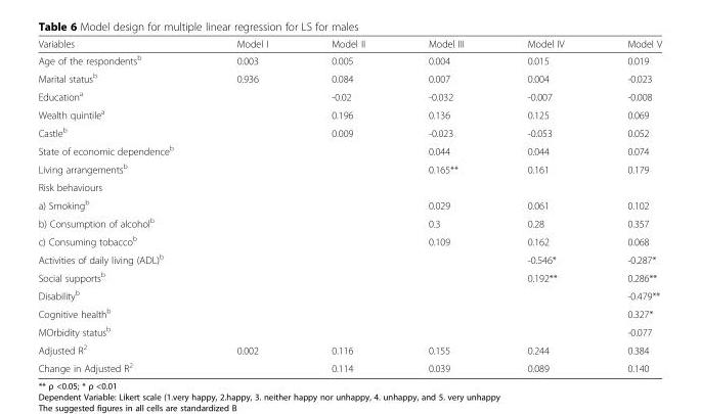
<table><thead><tr><td>Variables</td><td>Model I</td><td>Model II</td><td>Model III</td><td>Model IV</td><td>Model V</td></tr></thead><tbody><tr><td>Age of the respondents<sup>b</sup></td><td>0.003</td><td>0.005</td><td>0.004</td><td>0.015</td><td>0.019</td></tr><tr><td>Marital status<sup>b</sup></td><td>0.936</td><td>0.084</td><td>0.007</td><td>0.004</td><td>-0.023</td></tr><tr><td>Education<sup>a</sup></td><td></td><td>-0.02</td><td>-0.032</td><td>-0.007</td><td>-0.008</td></tr><tr><td>Wealth quintile<sup>a</sup></td><td></td><td>0.196</td><td>0.136</td><td>0.125</td><td>0.069</td></tr><tr><td>Castle<sup>b</sup></td><td></td><td>0.009</td><td>-0.023</td><td>-0.053</td><td>0.052</td></tr><tr><td>State of economic dependence<sup>b</sup></td><td></td><td></td><td>0.044</td><td>0.044</td><td>0.074</td></tr><tr><td>Living arrangements<sup>b</sup></td><td></td><td></td><td>0.165**</td><td>0.161</td><td>0.179</td></tr><tr><td colspan="6">Risk behaviours</td></tr><tr><td>a) Smoking<sup>b</sup></td><td></td><td></td><td>0.029</td><td>0.061</td><td>0.102</td></tr><tr><td>b) Consumption of alcohol<sup>b</sup></td><td></td><td></td><td>0.3</td><td>0.28</td><td>0.357</td></tr><tr><td>c) Consuming tobacco<sup>b</sup></td><td></td><td></td><td>0.109</td><td>0.162</td><td>0.068</td></tr><tr><td>Activities of daily living (ADL)<sup>b</sup></td><td></td><td></td><td></td><td>-0.546*</td><td>-0.287*</td></tr><tr><td>Social supports<sup>b</sup></td><td></td><td></td><td></td><td>0.192**</td><td>0.286**</td></tr><tr><td>Disability<sup>b</sup></td><td></td><td></td><td></td><td></td><td>-0.479**</td></tr><tr><td>Cognitive health<sup>b</sup></td><td></td><td></td><td></td><td></td><td>0.327*</td></tr><tr><td>MOrbidity status<sup>b</sup></td><td></td><td></td><td></td><td></td><td>-0.077</td></tr><tr><td>Adjusted R<sup>2</sup></td><td>0.002</td><td>0.116</td><td>0.155</td><td>0.244</td><td>0.384</td></tr><tr><td>Change in Adjusted R<sup>2</sup></td><td></td><td>0.114</td><td>0.039</td><td>0.089</td><td>0.140</td></tr></tbody></table>